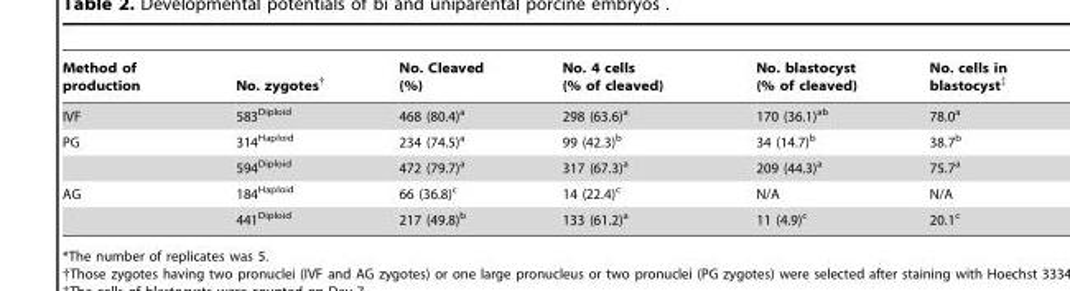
<table><thead><tr><td>Method of production</td><td>No. zygotes†</td><td>No. Cleaved (%)</td><td>No. 4 cells (% of cleaved)</td><td>No. blastocyst (% of cleaved)</td><td>No. cells in blastocyst‡</td></tr></thead><tbody><tr><td>IVF</td><td>583<sup>Diploid</sup></td><td>468 (80.4)<sup>a</sup></td><td>298 (63.6)<sup>a</sup></td><td>170 (36.1)<sup>ab</sup></td><td>78.0<sup>a</sup></td></tr><tr><td rowspan="2">PG</td><td>314<sup>Haploid</sup></td><td>234 (74.5)<sup>a</sup></td><td>99 (42.3)<sup>b</sup></td><td>34 (14.7)<sup>b</sup></td><td>38.7<sup>b</sup></td></tr><tr><td>594<sup>Diploid</sup></td><td>472 (79.7)<sup>a</sup></td><td>317 (67.3)<sup>a</sup></td><td>209 (44.3)<sup>a</sup></td><td>75.7<sup>a</sup></td></tr><tr><td rowspan="2">AG</td><td>184<sup>Haploid</sup></td><td>66 (36.8)<sup>c</sup></td><td>14 (22.4)<sup>c</sup></td><td>N/A</td><td>N/A</td></tr><tr><td>441<sup>Diploid</sup></td><td>217 (49.8)<sup>b</sup></td><td>133 (61.2)<sup>a</sup></td><td>11 (4.9)<sup>c</sup></td><td>20.1<sup>c</sup></td></tr></tbody></table>